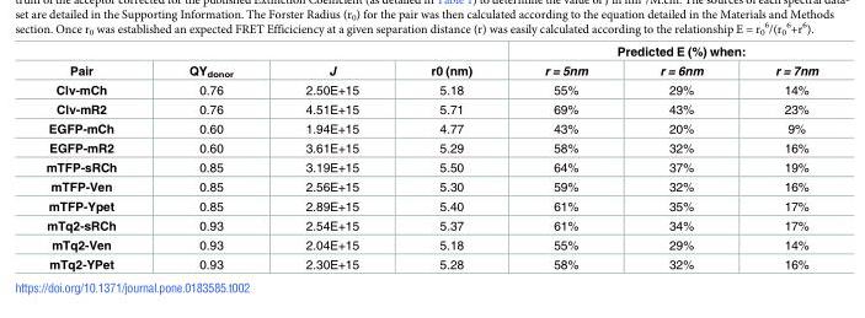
<table><thead><tr><td rowspan="2">Pair</td><td rowspan="2">QY<sub>donor</sub></td><td rowspan="2">J</td><td rowspan="2">r0 (nm)</td><td colspan="3">Predicted E (%) when:</td></tr><tr><td>r = 5nm</td><td>r = 6nm</td><td>r = 7nm</td></tr></thead><tbody><tr><td>Clv-mCh</td><td>0.76</td><td>2.50E+15</td><td>5.18</td><td>55%</td><td>29%</td><td>14%</td></tr><tr><td>Clv-mR2</td><td>0.76</td><td>4.51E+15</td><td>5.71</td><td>69%</td><td>43%</td><td>23%</td></tr><tr><td>EGFP-mCh</td><td>0.60</td><td>1.94E+15</td><td>4.77</td><td>43%</td><td>20%</td><td>9%</td></tr><tr><td>EGFP-mR2</td><td>0.60</td><td>3.61E+15</td><td>5.29</td><td>58%</td><td>32%</td><td>16%</td></tr><tr><td>mTFP-sRCh</td><td>0.85</td><td>3.19E+15</td><td>5.50</td><td>64%</td><td>37%</td><td>19%</td></tr><tr><td>mTFP-Ven</td><td>0.85</td><td>2.56E+15</td><td>5.30</td><td>59%</td><td>32%</td><td>16%</td></tr><tr><td>mTFP-Ypet</td><td>0.85</td><td>2.89E+15</td><td>5.40</td><td>61%</td><td>35%</td><td>17%</td></tr><tr><td>mTq2-sRCh</td><td>0.93</td><td>2.54E+15</td><td>5.37</td><td>61%</td><td>34%</td><td>17%</td></tr><tr><td>mTq2-Ven</td><td>0.93</td><td>2.04E+15</td><td>5.18</td><td>55%</td><td>29%</td><td>14%</td></tr><tr><td>mTq2-YPet</td><td>0.93</td><td>2.30E+15</td><td>5.28</td><td>58%</td><td>32%</td><td>16%</td></tr></tbody></table>